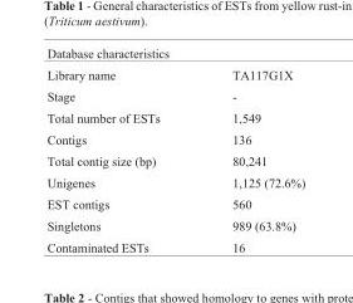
<table><thead><tr><td colspan="2">Database characteristics</td></tr><tr><td>Library name</td><td>TA117G1X</td></tr></thead><tbody><tr><td>Stage</td><td>-</td></tr><tr><td>Total number of ESTs</td><td>1,549</td></tr><tr><td>Contigs</td><td>136</td></tr><tr><td>Total contig size (bp)</td><td>80,241</td></tr><tr><td>Unigenes</td><td>1,125 (72.6%)</td></tr><tr><td>EST contigs</td><td>560</td></tr><tr><td>Singletons</td><td>989 (63.8%)</td></tr><tr><td>Contaminated ESTs</td><td>16</td></tr></tbody></table>